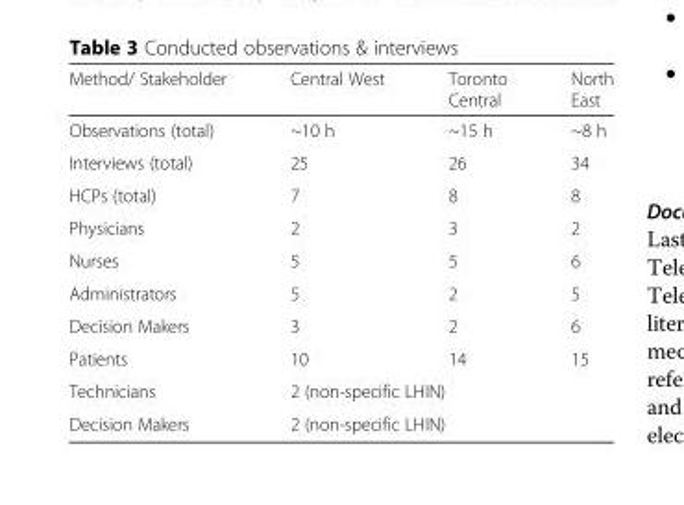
<table><thead><tr><td>Method/ Stakeholder</td><td>Central West</td><td>Toronto Central</td><td>North East</td></tr></thead><tbody><tr><td>Observations (total)</td><td>~10 h</td><td>~15 h</td><td>~8 h</td></tr><tr><td>Interviews (total)</td><td>25</td><td>26</td><td>34</td></tr><tr><td>HCPs (total)</td><td>7</td><td>8</td><td>8</td></tr><tr><td>Physicians</td><td>2</td><td>3</td><td>2</td></tr><tr><td>Nurses</td><td>5</td><td>5</td><td>6</td></tr><tr><td>Administrators</td><td>5</td><td>2</td><td>5</td></tr><tr><td>Decision Makers</td><td>3</td><td>2</td><td>6</td></tr><tr><td>Patients</td><td>10</td><td>14</td><td>15</td></tr><tr><td>Technicians</td><td colspan="3">2 (non-specific LHIN)</td></tr><tr><td>Decision Makers</td><td colspan="3">2 (non-specific LHIN)</td></tr></tbody></table>